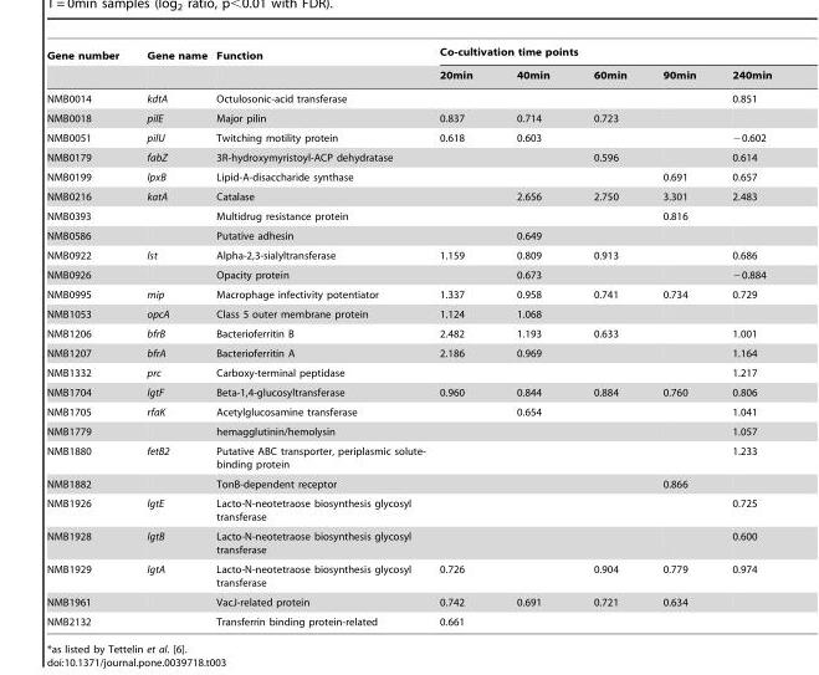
<table><thead><tr><td rowspan="2">Gene number</td><td rowspan="2">Gene name</td><td rowspan="2">Function</td><td colspan="5">Co-cultivation time points</td></tr><tr><td>20min</td><td>40min</td><td>60min</td><td>90min</td><td>240min</td></tr></thead><tbody><tr><td>NMB0014</td><td>kdtA</td><td>Octulosonic-acid transferase</td><td></td><td></td><td></td><td></td><td>0.851</td></tr><tr><td>NMB0018</td><td>pilE</td><td>Major pilin</td><td>0.837</td><td>0.714</td><td>0.723</td><td></td><td></td></tr><tr><td>NMB0051</td><td>pilU</td><td>Twitching motility protein</td><td>0.618</td><td>0.603</td><td></td><td></td><td>−0.602</td></tr><tr><td>NMB0179</td><td>fabZ</td><td>3R-hydroxymyristoyl-ACP dehydratase</td><td></td><td></td><td>0.596</td><td></td><td>0.614</td></tr><tr><td>NMB0199</td><td>lpxB</td><td>Lipid-A-disaccharide synthase</td><td></td><td></td><td></td><td>0.691</td><td>0.657</td></tr><tr><td>NMB0216</td><td>katA</td><td>Catalase</td><td></td><td>2.656</td><td>2.750</td><td>3.301</td><td>2.483</td></tr><tr><td>NMB0393</td><td></td><td>Multidrug resistance protein</td><td></td><td></td><td></td><td>0.816</td><td></td></tr><tr><td>NMB0586</td><td></td><td>Putative adhesin</td><td></td><td>0.649</td><td></td><td></td><td></td></tr><tr><td>NMB0922</td><td>lst</td><td>Alpha-2,3-sialyltransferase</td><td>1.159</td><td>0.809</td><td>0.913</td><td></td><td>0.686</td></tr><tr><td>NMB0926</td><td></td><td>Opacity protein</td><td></td><td>0.673</td><td></td><td></td><td>−0.884</td></tr><tr><td>NMB0995</td><td>mip</td><td>Macrophage infectivity potentiator</td><td>1.337</td><td>0.958</td><td>0.741</td><td>0.734</td><td>0.729</td></tr><tr><td>NMB1053</td><td>opcA</td><td>Class 5 outer membrane protein</td><td>1.124</td><td>1.068</td><td></td><td></td><td></td></tr><tr><td>NMB1206</td><td>bfrB</td><td>Bacterioferritin B</td><td>2.482</td><td>1.193</td><td>0.633</td><td></td><td>1.001</td></tr><tr><td>NMB1207</td><td>bfrA</td><td>Bacterioferritin A</td><td>2.186</td><td>0.969</td><td></td><td></td><td>1.164</td></tr><tr><td>NMB1332</td><td>prc</td><td>Carboxy-terminal peptidase</td><td></td><td></td><td></td><td></td><td>1.217</td></tr><tr><td>NMB1704</td><td>lgtF</td><td>Beta-1,4-glucosyltransferase</td><td>0.960</td><td>0.844</td><td>0.884</td><td>0.760</td><td>0.806</td></tr><tr><td>NMB1705</td><td>rfaK</td><td>Acetylglucosamine transferase</td><td></td><td>0.654</td><td></td><td></td><td>1.041</td></tr><tr><td>NMB1779</td><td></td><td>hemagglutinin/hemolysin</td><td></td><td></td><td></td><td></td><td>1.057</td></tr><tr><td>NMB1880</td><td>fetB2</td><td>Putative ABC transporter, periplasmic solute- binding protein</td><td></td><td></td><td></td><td></td><td>1.233</td></tr><tr><td>NMB1882</td><td></td><td>TonB-dependent receptor</td><td></td><td></td><td></td><td>0.866</td><td></td></tr><tr><td>NMB1926</td><td>lgtE</td><td>Lacto-N-neotetraose biosynthesis glycosyl transferase</td><td></td><td></td><td></td><td></td><td>0.725</td></tr><tr><td>NMB1928</td><td>lgtB</td><td>Lacto-N-neotetraose biosynthesis glycosyl transferase</td><td></td><td></td><td></td><td></td><td>0.600</td></tr><tr><td>NMB1929</td><td>lgtA</td><td>Lacto-N-neotetraose biosynthesis glycosyl transferase</td><td>0.726</td><td></td><td>0.904</td><td>0.779</td><td>0.974</td></tr><tr><td>NMB1961</td><td></td><td>VacJ-related protein</td><td>0.742</td><td>0.691</td><td>0.721</td><td>0.634</td><td></td></tr><tr><td>NMB2132</td><td></td><td>Transferrin binding protein-related</td><td>0.661</td><td></td><td></td><td></td><td></td></tr></tbody></table>